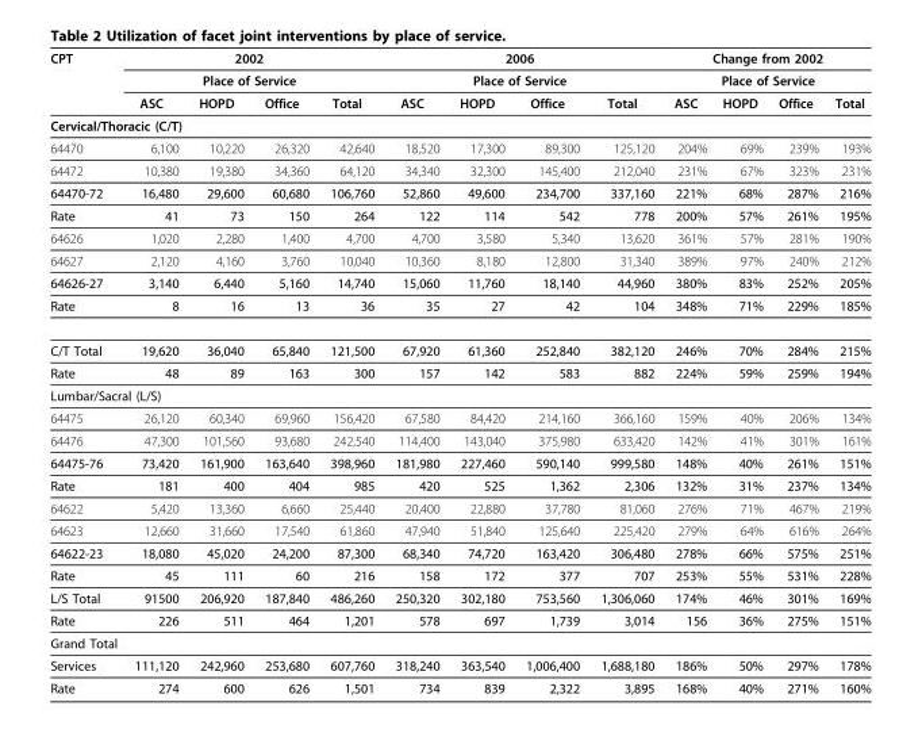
<table><thead><tr><td rowspan="3">CPT</td><td rowspan="2" colspan="4">2002 Place of Service</td><td rowspan="2" colspan="4">2006 Place of Service</td><td rowspan="2" colspan="4">Change from 2002 Place of Service</td></tr><tr></tr><tr><td>ASC</td><td>HOPD</td><td>Office</td><td>Total</td><td>ASC</td><td>HOPD</td><td>Office</td><td>Total</td><td>ASC</td><td>HOPD</td><td>Office</td><td>Total</td></tr></thead><tbody><tr><td colspan="13">Cervical/Thoracic (C/T)</td></tr><tr><td>64470</td><td>6,100</td><td>10,220</td><td>26,320</td><td>42,640</td><td>18,520</td><td>17,300</td><td>89,300</td><td>125,120</td><td>204%</td><td>69%</td><td>239%</td><td>193%</td></tr><tr><td>64472</td><td>10,380</td><td>19,380</td><td>34,360</td><td>64,120</td><td>34,340</td><td>32,300</td><td>145,400</td><td>212,040</td><td>231%</td><td>67%</td><td>323%</td><td>231%</td></tr><tr><td>64470-72</td><td>16,480</td><td>29,600</td><td>60,680</td><td>106,760</td><td>52,860</td><td>49,600</td><td>234,700</td><td>337,160</td><td>221%</td><td>68%</td><td>287%</td><td>216%</td></tr><tr><td>Rate</td><td>41</td><td>73</td><td>150</td><td>264</td><td>122</td><td>114</td><td>542</td><td>778</td><td>200%</td><td>57%</td><td>261%</td><td>195%</td></tr><tr><td>64626</td><td>1,020</td><td>2,280</td><td>1,400</td><td>4,700</td><td>4,700</td><td>3,580</td><td>5,340</td><td>13,620</td><td>361%</td><td>57%</td><td>281%</td><td>190%</td></tr><tr><td>64627</td><td>2,120</td><td>4,160</td><td>3,760</td><td>10,040</td><td>10,360</td><td>8,180</td><td>12,800</td><td>31,340</td><td>389%</td><td>97%</td><td>240%</td><td>212%</td></tr><tr><td>64626-27</td><td>3,140</td><td>6,440</td><td>5,160</td><td>14,740</td><td>15,060</td><td>11,760</td><td>18,140</td><td>44,960</td><td>380%</td><td>83%</td><td>252%</td><td>205%</td></tr><tr><td>Rate</td><td>8</td><td>16</td><td>13</td><td>36</td><td>35</td><td>27</td><td>42</td><td>104</td><td>348%</td><td>71%</td><td>229%</td><td>185%</td></tr><tr><td>C/T Total</td><td>19,620</td><td>36,040</td><td>65,840</td><td>121,500</td><td>67,920</td><td>61,360</td><td>252,840</td><td>382,120</td><td>246%</td><td>70%</td><td>284%</td><td>215%</td></tr><tr><td>Rate</td><td>48</td><td>89</td><td>163</td><td>300</td><td>157</td><td>142</td><td>583</td><td>882</td><td>224%</td><td>59%</td><td>259%</td><td>194%</td></tr><tr><td colspan="13">Lumbar/Sacral (L/S)</td></tr><tr><td>64475</td><td>26,120</td><td>60,340</td><td>69,960</td><td>156,420</td><td>67,580</td><td>84,420</td><td>214,160</td><td>366,160</td><td>159%</td><td>40%</td><td>206%</td><td>134%</td></tr><tr><td>64476</td><td>47,300</td><td>101,560</td><td>93,680</td><td>242,540</td><td>114,400</td><td>143,040</td><td>375,980</td><td>633,420</td><td>142%</td><td>41%</td><td>301%</td><td>161%</td></tr><tr><td>64475-76</td><td>73,420</td><td>161,900</td><td>163,640</td><td>398,960</td><td>181,980</td><td>227,460</td><td>590,140</td><td>999,580</td><td>148%</td><td>40%</td><td>261%</td><td>151%</td></tr><tr><td>Rate</td><td>181</td><td>400</td><td>404</td><td>985</td><td>420</td><td>525</td><td>1,362</td><td>2,306</td><td>132%</td><td>31%</td><td>237%</td><td>134%</td></tr><tr><td>64622</td><td>5,420</td><td>13,360</td><td>6,660</td><td>25,440</td><td>20,400</td><td>22,880</td><td>37,780</td><td>81,060</td><td>276%</td><td>71%</td><td>467%</td><td>219%</td></tr><tr><td>64623</td><td>12,660</td><td>31,660</td><td>17,540</td><td>61,860</td><td>47,940</td><td>51,840</td><td>125,640</td><td>225,420</td><td>279%</td><td>64%</td><td>616%</td><td>264%</td></tr><tr><td>64622-23</td><td>18,080</td><td>45,020</td><td>24,200</td><td>87,300</td><td>68,340</td><td>74,720</td><td>163,420</td><td>306,480</td><td>278%</td><td>66%</td><td>575%</td><td>251%</td></tr><tr><td>Rate</td><td>45</td><td>111</td><td>60</td><td>216</td><td>158</td><td>172</td><td>377</td><td>707</td><td>253%</td><td>55%</td><td>531%</td><td>228%</td></tr><tr><td>L/S Total</td><td>91500</td><td>206,920</td><td>187,840</td><td>486,260</td><td>250,320</td><td>302,180</td><td>753,560</td><td>1,306,060</td><td>174%</td><td>46%</td><td>301%</td><td>169%</td></tr><tr><td>Rate</td><td>226</td><td>511</td><td>464</td><td>1,201</td><td>578</td><td>697</td><td>1,739</td><td>3,014</td><td>156</td><td>36%</td><td>275%</td><td>151%</td></tr><tr><td colspan="13">Grand Total</td></tr><tr><td>Services</td><td>111,120</td><td>242,960</td><td>253,680</td><td>607,760</td><td>318,240</td><td>363,540</td><td>1,006,400</td><td>1,688,180</td><td>186%</td><td>50%</td><td>297%</td><td>178%</td></tr><tr><td>Rate</td><td>274</td><td>600</td><td>626</td><td>1,501</td><td>734</td><td>839</td><td>2,322</td><td>3,895</td><td>168%</td><td>40%</td><td>271%</td><td>160%</td></tr></tbody></table>